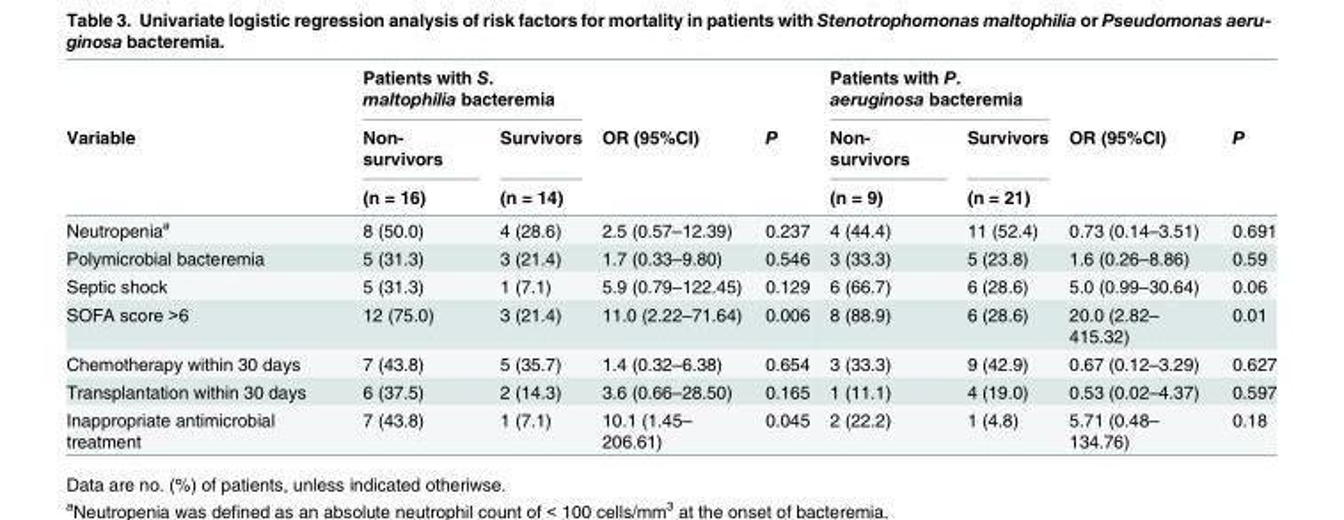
<table><thead><tr><td rowspan="3">Variable</td><td colspan="2">Patients with S. maltophilia bacteremia</td><td rowspan="3">OR (95%CI)</td><td rowspan="3">P</td><td colspan="2">Patients with P. aeruginosa bacteremia</td><td rowspan="3">OR (95%CI)</td><td rowspan="3">P</td></tr><tr><td rowspan="2">Non- survivors (n = 16)</td><td rowspan="2">Survivors (n = 14)</td><td rowspan="2">Non- survivors (n = 9)</td><td rowspan="2">Survivors (n = 21)</td></tr><tr></tr></thead><tbody><tr><td>Neutropenia<sup>a</sup></td><td>8 (50.0)</td><td>4 (28.6)</td><td>2.5 (0.57–12.39)</td><td>0.237</td><td>4 (44.4)</td><td>11 (52.4)</td><td>0.73 (0.14–3.51)</td><td>0.691</td></tr><tr><td>Polymicrobial bacteremia</td><td>5 (31.3)</td><td>3 (21.4)</td><td>1.7 (0.33–9.80)</td><td>0.546</td><td>3 (33.3)</td><td>5 (23.8)</td><td>1.6 (0.26–8.86)</td><td>0.59</td></tr><tr><td>Septic shock</td><td>5 (31.3)</td><td>1 (7.1)</td><td>5.9 (0.79–122.45)</td><td>0.129</td><td>6 (66.7)</td><td>6 (28.6)</td><td>5.0 (0.99–30.64)</td><td>0.06</td></tr><tr><td>SOFA score &gt;6</td><td>12 (75.0)</td><td>3 (21.4)</td><td>11.0 (2.22–71.64)</td><td>0.006</td><td>8 (88.9)</td><td>6 (28.6)</td><td>20.0 (2.82– 415.32)</td><td>0.01</td></tr><tr><td>Chemotherapy within 30 days</td><td>7 (43.8)</td><td>5 (35.7)</td><td>1.4 (0.32–6.38)</td><td>0.654</td><td>3 (33.3)</td><td>9 (42.9)</td><td>0.67 (0.12–3.29)</td><td>0.627</td></tr><tr><td>Transplantation within 30 days</td><td>6 (37.5)</td><td>2 (14.3)</td><td>3.6 (0.66–28.50)</td><td>0.165</td><td>1 (11.1)</td><td>4 (19.0)</td><td>0.53 (0.02–4.37)</td><td>0.597</td></tr><tr><td>Inappropriate antimicrobial treatment</td><td>7 (43.8)</td><td>1 (7.1)</td><td>10.1 (1.45– 206.61)</td><td>0.045</td><td>2 (22.2)</td><td>1 (4.8)</td><td>5.71 (0.48– 134.76)</td><td>0.18</td></tr></tbody></table>